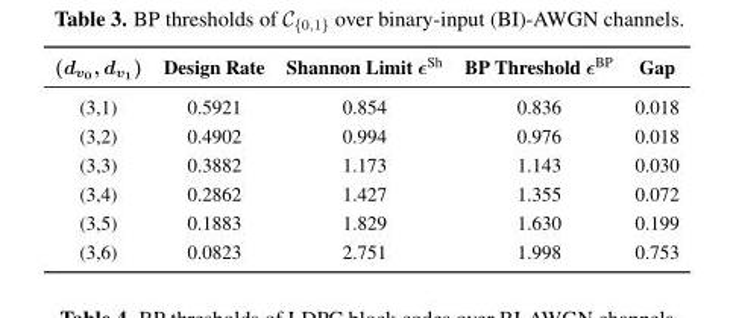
<table><thead><tr><td>(dv0, dv1)</td><td>Design Rate</td><td>Shannon Limit ϵ<sup>Sh</sup></td><td>BP Threshold ϵ<sup>BP</sup></td><td>Gap</td></tr></thead><tbody><tr><td>(3,1)</td><td>0.5921</td><td>0.854</td><td>0.836</td><td>0.018</td></tr><tr><td>(3,2)</td><td>0.4902</td><td>0.994</td><td>0.976</td><td>0.018</td></tr><tr><td>(3,3)</td><td>0.3882</td><td>1.173</td><td>1.143</td><td>0.030</td></tr><tr><td>(3,4)</td><td>0.2862</td><td>1.427</td><td>1.355</td><td>0.072</td></tr><tr><td>(3,5)</td><td>0.1883</td><td>1.829</td><td>1.630</td><td>0.199</td></tr><tr><td>(3,6)</td><td>0.0823</td><td>2.751</td><td>1.998</td><td>0.753</td></tr></tbody></table>